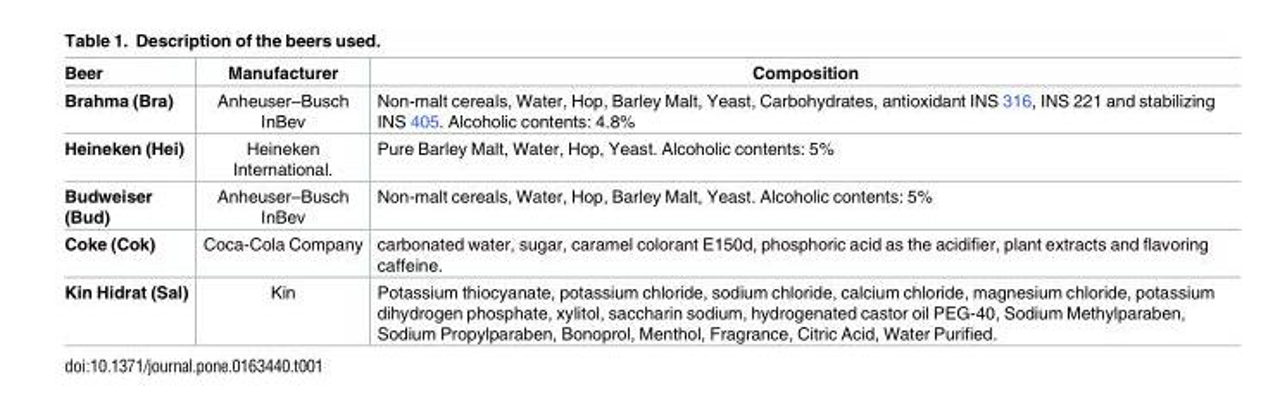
<table><thead><tr><td>Beer</td><td>Manufacturer</td><td>Composition</td></tr></thead><tbody><tr><td>Brahma (Bra)</td><td>Anheuser–Busch InBev</td><td>Non-malt cereals, Water, Hop, Barley Malt, Yeast, Carbohydrates, antioxidant INS 316, INS 221 and stabilizing INS 405. Alcoholic contents: 4.8%</td></tr><tr><td>Heineken (Hei)</td><td>Heineken International.</td><td>Pure Barley Malt, Water, Hop, Yeast. Alcoholic contents: 5%</td></tr><tr><td>Budweiser (Bud)</td><td>Anheuser–Busch InBev</td><td>Non-malt cereals, Water, Hop, Barley Malt, Yeast. Alcoholic contents: 5%</td></tr><tr><td>Coke (Cok)</td><td>Coca-Cola Company</td><td>carbonated water, sugar, caramel colorant E150d, phosphoric acid as the acidifier, plant extracts and flavoring caffeine.</td></tr><tr><td>Kin Hidrat (Sal)</td><td>Kin</td><td>Potassium thiocyanate, potassium chloride, sodium chloride, calcium chloride, magnesium chloride, potassium dihydrogen phosphate, xylitol, saccharin sodium, hydrogenated castor oil PEG-40, Sodium Methylparaben, Sodium Propylparaben, Bonoprol, Menthol, Fragrance, Citric Acid, Water Purified.</td></tr></tbody></table>